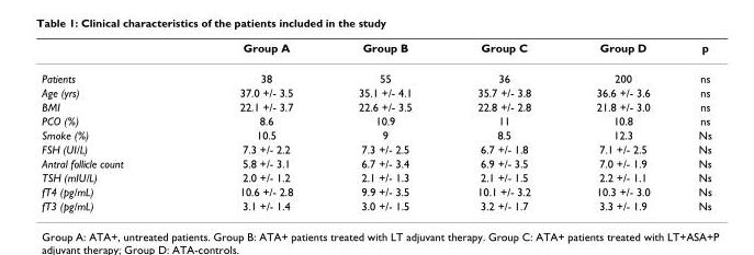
<table><thead><tr><td></td><td>Group A</td><td>Group B</td><td>Group C</td><td>Group D</td><td>p</td></tr></thead><tbody><tr><td>Patients</td><td>38</td><td>55</td><td>36</td><td>200</td><td>ns</td></tr><tr><td>Age (yrs)</td><td>37.0 +/- 3.5</td><td>35.1 +/- 4.1</td><td>35.7 +/- 3.8</td><td>36.6 +/- 3.6</td><td>ns</td></tr><tr><td>BMI</td><td>22.1 +/- 3.7</td><td>22.6 +/- 3.5</td><td>22.8 +/- 2.8</td><td>21.8 +/- 3.0</td><td>ns</td></tr><tr><td>PCO (%)</td><td>8.6</td><td>10.9</td><td>11</td><td>10.8</td><td>ns</td></tr><tr><td>Smoke (%)</td><td>10.5</td><td>9</td><td>8.5</td><td>12.3</td><td>Ns</td></tr><tr><td>FSH (UI/L)</td><td>7.3 +/- 2.2</td><td>7.3 +/- 2.5</td><td>6.7 +/- 1.8</td><td>7.1 +/- 2.5</td><td>Ns</td></tr><tr><td>Antral follicle count</td><td>5.8 +/- 3.1</td><td>6.7 +/- 3.4</td><td>6.9 +/- 3.5</td><td>7.0 +/- 1.9</td><td>Ns</td></tr><tr><td>TSH (mIU/L)</td><td>2.0 +/- 1.2</td><td>2.1 +/- 1.3</td><td>2.1 +/- 1.5</td><td>2.2 +/- 1.1</td><td>Ns</td></tr><tr><td>fT4 (pg/mL)</td><td>10.6 +/- 2.8</td><td>9.9 +/- 3.5</td><td>10.1 +/- 3.2</td><td>10.3 +/- 3.0</td><td>Ns</td></tr><tr><td>fT3 (pg/mL)</td><td>3.1 +/- 1.4</td><td>3.0 +/- 1.5</td><td>3.2 +/- 1.7</td><td>3.3 +/- 1.9</td><td>Ns</td></tr></tbody></table>